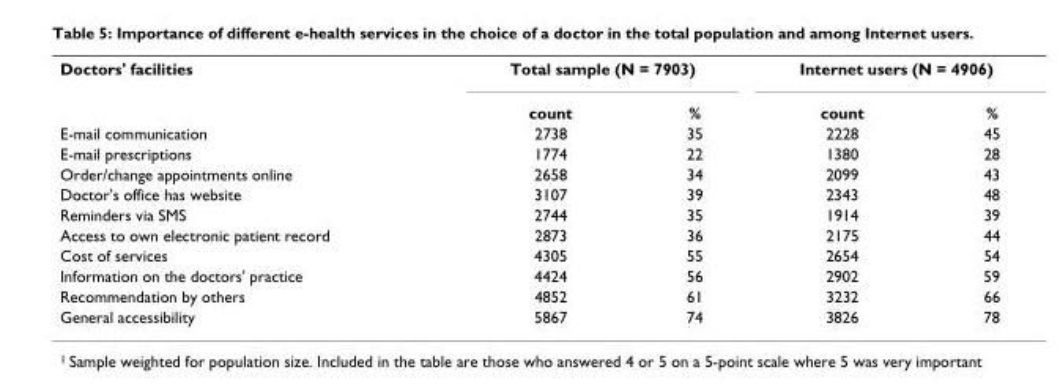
<table><tbody><tr><td rowspan="2">Doctors&#x27; facilities</td><td colspan="2">Total sample (N = 7903)</td><td colspan="2">Internet users (N = 4906)</td></tr><tr><td>count</td><td>%</td><td>count</td><td>%</td></tr><tr><td>E-mail communication</td><td>2738</td><td>35</td><td>2228</td><td>45</td></tr><tr><td>E-mail prescriptions</td><td>1774</td><td>22</td><td>1380</td><td>28</td></tr><tr><td>Order/change appointments online</td><td>2658</td><td>34</td><td>2099</td><td>43</td></tr><tr><td>Doctor&#x27;s office has website</td><td>3107</td><td>39</td><td>2343</td><td>48</td></tr><tr><td>Reminders via SMS</td><td>2744</td><td>35</td><td>1914</td><td>39</td></tr><tr><td>Access to own electronic patient record</td><td>2873</td><td>36</td><td>2175</td><td>44</td></tr><tr><td>Cost of services</td><td>4305</td><td>55</td><td>2654</td><td>54</td></tr><tr><td>Information on the doctors&#x27; practice</td><td>4424</td><td>56</td><td>2902</td><td>59</td></tr><tr><td>Recommendation by others</td><td>4852</td><td>61</td><td>3232</td><td>66</td></tr><tr><td>General accessibility</td><td>5867</td><td>74</td><td>3826</td><td>78</td></tr></tbody></table>